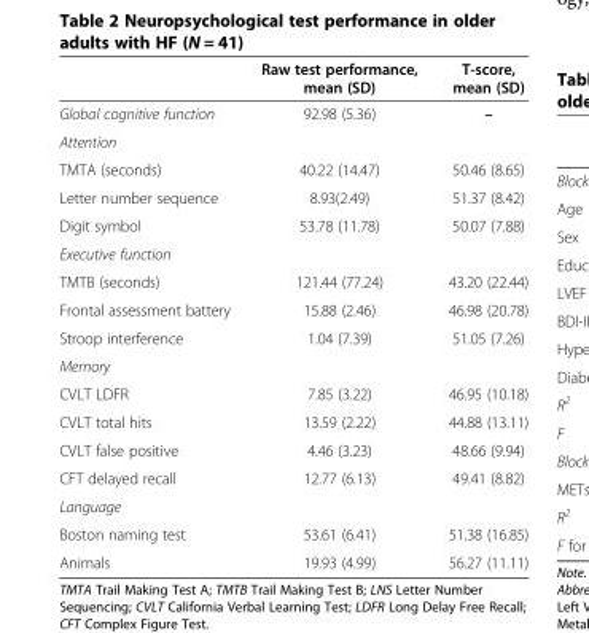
<table><thead><tr><td></td><td>Raw test performance, mean (SD)</td><td>T-score, mean (SD)</td></tr></thead><tbody><tr><td>Global cognitive function</td><td>92.98 (5.36)</td><td>–</td></tr><tr><td colspan="3">Attention</td></tr><tr><td>TMTA (seconds)</td><td>40.22 (14.47)</td><td>50.46 (8.65)</td></tr><tr><td>Letter number sequence</td><td>8.93(2.49)</td><td>51.37 (8.42)</td></tr><tr><td>Digit symbol</td><td>53.78 (11.78)</td><td>50.07 (7.88)</td></tr><tr><td colspan="3">Executive function</td></tr><tr><td>TMTB (seconds)</td><td>121.44 (77.24)</td><td>43.20 (22.44)</td></tr><tr><td>Frontal assessment battery</td><td>15.88 (2.46)</td><td>46.98 (20.78)</td></tr><tr><td>Stroop interference</td><td>1.04 (7.39)</td><td>51.05 (7.26)</td></tr><tr><td colspan="3">Memory</td></tr><tr><td>CVLT LDFR</td><td>7.85 (3.22)</td><td>46.95 (10.18)</td></tr><tr><td>CVLT total hits</td><td>13.59 (2.22)</td><td>44.88 (13.11)</td></tr><tr><td>CVLT false positive</td><td>4.46 (3.23)</td><td>48.66 (9.94)</td></tr><tr><td>CFT delayed recall</td><td>12.77 (6.13)</td><td>49.41 (8.82)</td></tr><tr><td colspan="3">Language</td></tr><tr><td>Boston naming test</td><td>53.61 (6.41)</td><td>51.38 (16.85)</td></tr><tr><td>Animals</td><td>19.93 (4.99)</td><td>56.27 (11.11)</td></tr></tbody></table>